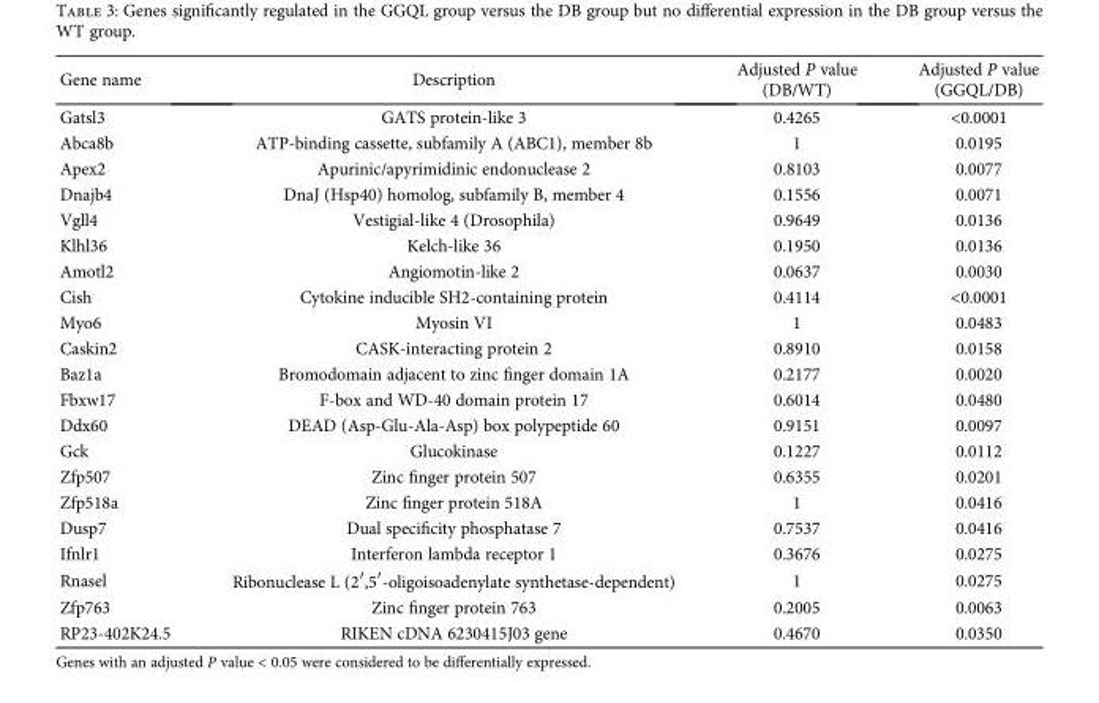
<table><thead><tr><td>Gene name</td><td>Description</td><td>Adjusted P value (DB/WT)</td><td>Adjusted P value (GGQL/DB)</td></tr></thead><tbody><tr><td>Gatsl3</td><td>GATS protein-like 3</td><td>0.4265</td><td>&lt;0.0001</td></tr><tr><td>Abca8b</td><td>ATP-binding cassette, subfamily A (ABC1), member 8b</td><td>1</td><td>0.0195</td></tr><tr><td>Apex2</td><td>Apurinic/apyrimidinic endonuclease 2</td><td>0.8103</td><td>0.0077</td></tr><tr><td>Dnajb4</td><td>DnaJ (Hsp40) homolog, subfamily B, member 4</td><td>0.1556</td><td>0.0071</td></tr><tr><td>Vgll4</td><td>Vestigial-like 4 (Drosophila)</td><td>0.9649</td><td>0.0136</td></tr><tr><td>Klhl36</td><td>Kelch-like 36</td><td>0.1950</td><td>0.0136</td></tr><tr><td>Amotl2</td><td>Angiomotin-like 2</td><td>0.0637</td><td>0.0030</td></tr><tr><td>Cish</td><td>Cytokine inducible SH2-containing protein</td><td>0.4114</td><td>&lt;0.0001</td></tr><tr><td>Myo6</td><td>Myosin VI</td><td>1</td><td>0.0483</td></tr><tr><td>Caskin2</td><td>CASK-interacting protein 2</td><td>0.8910</td><td>0.0158</td></tr><tr><td>Baz1a</td><td>Bromodomain adjacent to zinc finger domain 1A</td><td>0.2177</td><td>0.0020</td></tr><tr><td>Fbxw17</td><td>F-box and WD-40 domain protein 17</td><td>0.6014</td><td>0.0480</td></tr><tr><td>Ddx60</td><td>DEAD (Asp-Glu-Ala-Asp) box polypeptide 60</td><td>0.9151</td><td>0.0097</td></tr><tr><td>Gck</td><td>Glucokinase</td><td>0.1227</td><td>0.0112</td></tr><tr><td>Zfp507</td><td>Zinc finger protein 507</td><td>0.6355</td><td>0.0201</td></tr><tr><td>Zfp518a</td><td>Zinc finger protein 518A</td><td>1</td><td>0.0416</td></tr><tr><td>Dusp7</td><td>Dual specificity phosphatase 7</td><td>0.7537</td><td>0.0416</td></tr><tr><td>Ifnlr1</td><td>Interferon lambda receptor 1</td><td>0.3676</td><td>0.0275</td></tr><tr><td>Rnasel</td><td>Ribonuclease L (2′,5′-oligoisoadenylate synthetase-dependent)</td><td>1</td><td>0.0275</td></tr><tr><td>Zfp763</td><td>Zinc finger protein 763</td><td>0.2005</td><td>0.0063</td></tr><tr><td>RP23-402K24.5</td><td>RIKEN cDNA 6230415J03 gene</td><td>0.4670</td><td>0.0350</td></tr></tbody></table>